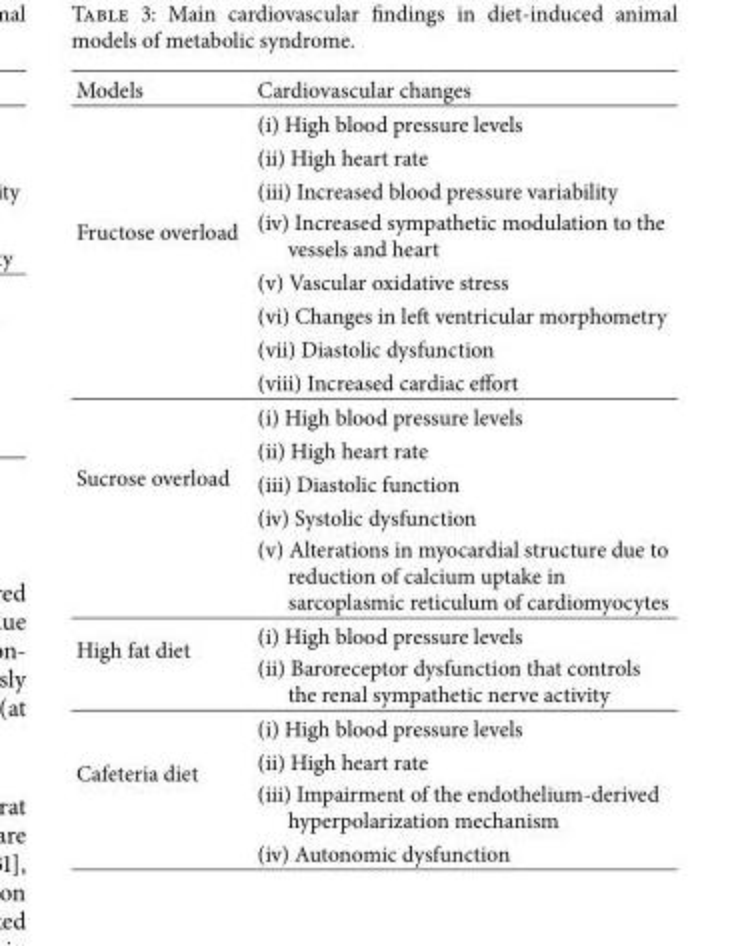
<table><thead><tr><td>Models</td><td>Cardiovascular changes</td></tr></thead><tbody><tr><td rowspan="8">Fructose overload</td><td>(i) High blood pressure levels</td></tr><tr><td>(ii) High heart rate</td></tr><tr><td>(iii) Increased blood pressure variability</td></tr><tr><td>(iv) Increased sympathetic modulation to the vessels and heart</td></tr><tr><td>(v) Vascular oxidative stress</td></tr><tr><td>(vi) Changes in left ventricular morphometry</td></tr><tr><td>(vii) Diastolic dysfunction</td></tr><tr><td>(viii) Increased cardiac effort</td></tr><tr><td rowspan="5">Sucrose overload</td><td>(i) High blood pressure levels</td></tr><tr><td>(ii) High heart rate</td></tr><tr><td>(iii) Diastolic function</td></tr><tr><td>(iv) Systolic dysfunction</td></tr><tr><td>(v) Alterations in myocardial structure due to reduction of calcium uptake in sarcoplasmic reticulum of cardiomyocytes</td></tr><tr><td rowspan="2">High fat diet</td><td>(i) High blood pressure levels</td></tr><tr><td>(ii) Baroreceptor dysfunction that controls the renal sympathetic nerve activity</td></tr><tr><td rowspan="4">Cafeteria diet</td><td>(i) High blood pressure levels</td></tr><tr><td>(ii) High heart rate</td></tr><tr><td>(iii) Impairment of the endothelium-derived hyperpolarization mechanism</td></tr><tr><td>(iv) Autonomic dysfunction</td></tr></tbody></table>